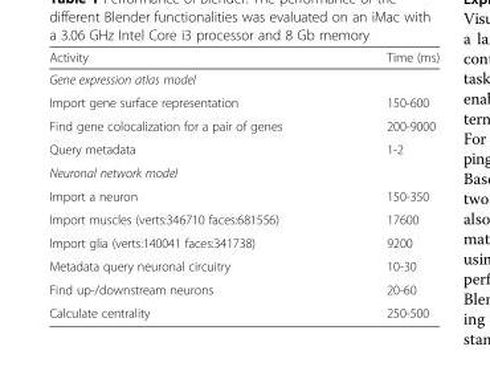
<table><thead><tr><td>Activity</td><td>Time (ms)</td></tr></thead><tbody><tr><td colspan="2">Gene expression atlas model</td></tr><tr><td>Import gene surface representation</td><td>150-600</td></tr><tr><td>Find gene colocalization for a pair of genes</td><td>200-9000</td></tr><tr><td>Query metadata</td><td>1-2</td></tr><tr><td colspan="2">Neuronal network model</td></tr><tr><td>Import a neuron</td><td>150-350</td></tr><tr><td>Import muscles (verts:346710 faces:681556)</td><td>17600</td></tr><tr><td>Import glia (verts:140041 faces:341738)</td><td>9200</td></tr><tr><td>Metadata query neuronal circuitry</td><td>10-30</td></tr><tr><td>Find up-/downstream neurons</td><td>20-60</td></tr><tr><td>Calculate centrality</td><td>250-500</td></tr></tbody></table>